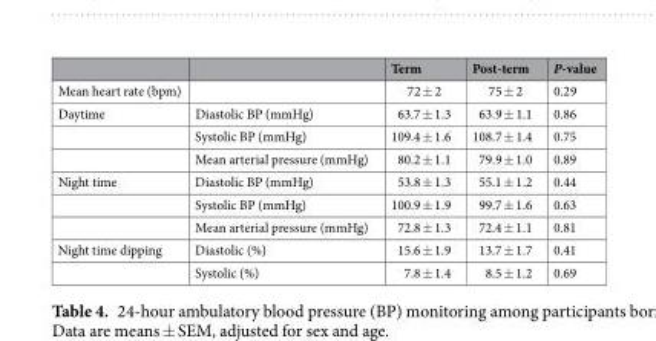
<table><thead><tr><td></td><td></td><td>Term</td><td>Post-term</td><td>P-value</td></tr></thead><tbody><tr><td>Mean heart rate (bpm)</td><td></td><td>72 ± 2</td><td>75 ± 2</td><td>0.29</td></tr><tr><td rowspan="3">Daytime</td><td>Diastolic BP (mmHg)</td><td>63.7 ± 1.3</td><td>63.9 ± 1.1</td><td>0.86</td></tr><tr><td>Systolic BP (mmHg)</td><td>109.4 ± 1.6</td><td>108.7 ± 1.4</td><td>0.75</td></tr><tr><td>Mean arterial pressure (mmHg)</td><td>80.2 ± 1.1</td><td>79.9 ± 1.0</td><td>0.89</td></tr><tr><td rowspan="3">Night time</td><td>Diastolic BP (mmHg)</td><td>53.8 ± 1.3</td><td>55.1 ± 1.2</td><td>0.44</td></tr><tr><td>Systolic BP (mmHg)</td><td>100.9 ± 1.9</td><td>99.7 ± 1.6</td><td>0.63</td></tr><tr><td>Mean arterial pressure (mmHg)</td><td>72.8 ± 1.3</td><td>72.4 ± 1.1</td><td>0.81</td></tr><tr><td rowspan="2">Night time dipping</td><td>Diastolic (%)</td><td>15.6 ± 1.9</td><td>13.7 ± 1.7</td><td>0.41</td></tr><tr><td>Systolic (%)</td><td>7.8 ± 1.4</td><td>8.5 ± 1.2</td><td>0.69</td></tr></tbody></table>